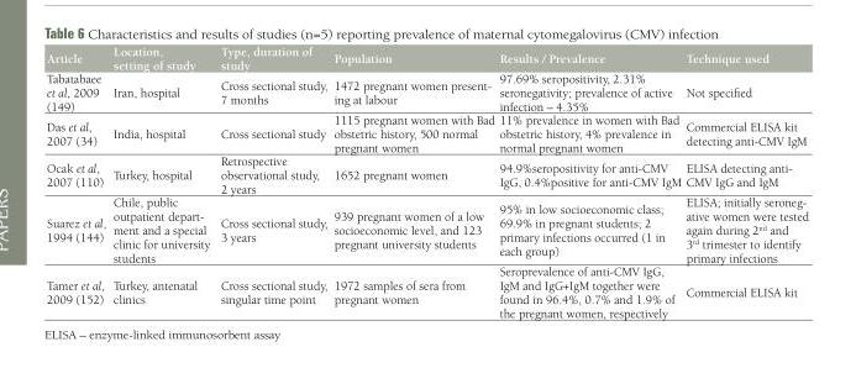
<table><thead><tr><td>Article</td><td>Location, setting of study</td><td>Type, duration of study</td><td>Population</td><td>Results / Prevalence</td><td>Technique used</td></tr></thead><tbody><tr><td>Tabatabaee et al, 2009 (149)</td><td>Iran, hospital</td><td>Cross sectional study, 7 months</td><td>1472 pregnant women present- ing at labour</td><td>97.69% seropositivity, 2.31% seronegativity; prevalence of active infection – 4.35%</td><td>Not specified</td></tr><tr><td>Das et al, 2007 (34)</td><td>India, hospital</td><td>Cross sectional study</td><td>1115 pregnant women with Bad obstetric history, 500 normal pregnant women</td><td>11% prevalence in women with Bad obstetric history, 4% prevalence in normal pregnant women</td><td>Commercial ELISA kit detecting anti-CMV IgM</td></tr><tr><td>Ocak et al, 2007 (110)</td><td>Turkey, hospital</td><td>Retrospective observational study, 2 years</td><td>1652 pregnant women</td><td>94.9%seropositivity for anti-CMV IgG, 0.4%positive for anti-CMV IgM</td><td>ELISA detecting anti- CMV IgG and IgM</td></tr><tr><td>Suarez et al, 1994 (144)</td><td>Chile, public outpatient depart- ment and a special clinic for university students</td><td>Cross sectional study, 3 years</td><td>939 pregnant women of a low socioeconomic level, and 123 pregnant university students</td><td>95% in low socioeconomic class; 69.9% in pregnant students; 2 primary infections occurred (1 in each group)</td><td>ELISA; initially seroneg- ative women were tested again during 2nd and 3rd trimester to identify primary infections</td></tr><tr><td>Tamer et al, 2009 (152)</td><td>Turkey, antenatal clinics</td><td>Cross sectional study, singular time point</td><td>1972 samples of sera from pregnant women</td><td>Seroprevalence of anti-CMV IgG, IgM and IgG+IgM together were found in 96.4%, 0.7% and 1.9% of the pregnant women, respectively</td><td>Commercial ELISA kit</td></tr></tbody></table>